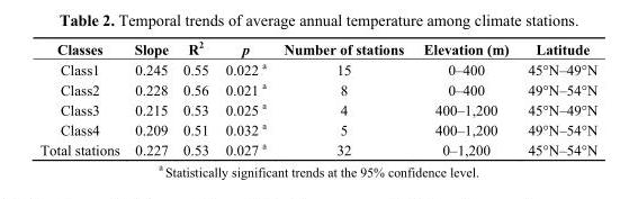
<table><thead><tr><td>Classes</td><td>Slope</td><td>R<sup>2</sup></td><td>p</td><td>Number of stations</td><td>Elevation (m)</td><td>Latitude</td></tr></thead><tbody><tr><td>Class1</td><td>0.245</td><td>0.55</td><td>0.022 <sup>a</sup></td><td>15</td><td>0–400</td><td>45°N–49°N</td></tr><tr><td>Class2</td><td>0.228</td><td>0.56</td><td>0.021 <sup>a</sup></td><td>8</td><td>0–400</td><td>49°N–54°N</td></tr><tr><td>Class3</td><td>0.215</td><td>0.53</td><td>0.025 <sup>a</sup></td><td>4</td><td>400–1,200</td><td>45°N–49°N</td></tr><tr><td>Class4</td><td>0.209</td><td>0.51</td><td>0.032 <sup>a</sup></td><td>5</td><td>400–1,200</td><td>49°N–54°N</td></tr><tr><td>Total stations</td><td>0.227</td><td>0.53</td><td>0.027 <sup>a</sup></td><td>32</td><td>0–1,200</td><td>45°N–54°N</td></tr></tbody></table>